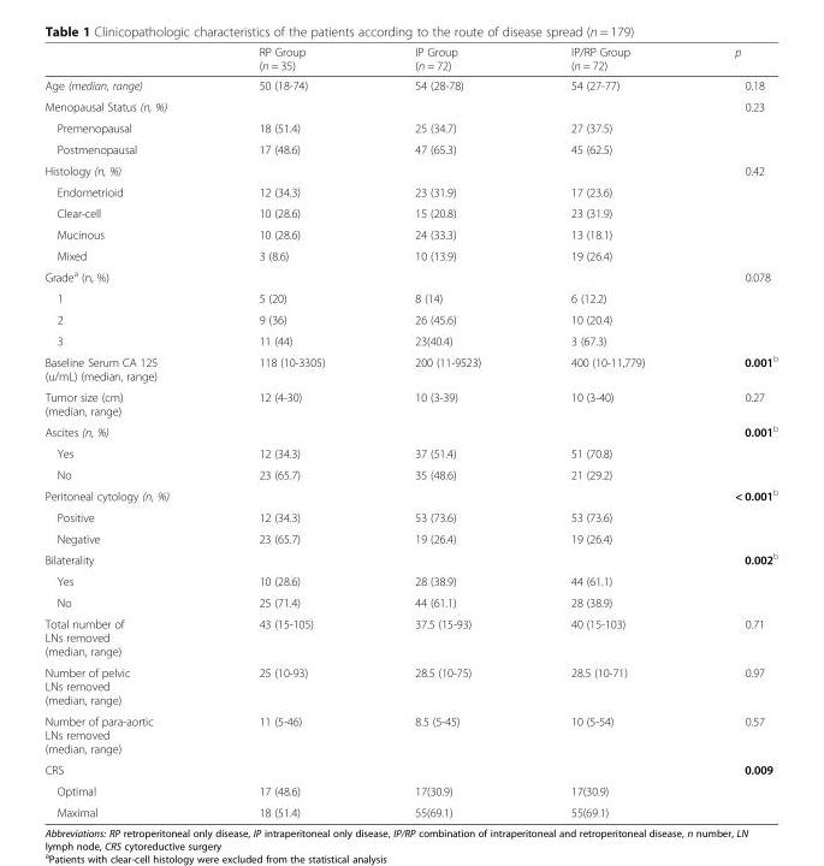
<table><thead><tr><td></td><td>RP Group (n = 35)</td><td>IP Group (n = 72)</td><td>IP/RP Group (n = 72)</td><td>p</td></tr></thead><tbody><tr><td>Age (median, range)</td><td>50 (18-74)</td><td>54 (28-78)</td><td>54 (27-77)</td><td>0.18</td></tr><tr><td>Menopausal Status (n, %)</td><td></td><td></td><td></td><td>0.23</td></tr><tr><td>Premenopausal</td><td>18 (51.4)</td><td>25 (34.7)</td><td>27 (37.5)</td><td></td></tr><tr><td>Postmenopausal</td><td>17 (48.6)</td><td>47 (65.3)</td><td>45 (62.5)</td><td></td></tr><tr><td>Histology (n, %)</td><td></td><td></td><td></td><td>0.42</td></tr><tr><td>Endometrioid</td><td>12 (34.3)</td><td>23 (31.9)</td><td>17 (23.6)</td><td></td></tr><tr><td>Clear-cell</td><td>10 (28.6)</td><td>15 (20.8)</td><td>23 (31.9)</td><td></td></tr><tr><td>Mucinous</td><td>10 (28.6)</td><td>24 (33.3)</td><td>13 (18.1)</td><td></td></tr><tr><td>Mixed</td><td>3 (8.6)</td><td>10 (13.9)</td><td>19 (26.4)</td><td></td></tr><tr><td>Grade<sup>a</sup> (n, %)</td><td></td><td></td><td></td><td>0.078</td></tr><tr><td>1</td><td>5 (20)</td><td>8 (14)</td><td>6 (12.2)</td><td></td></tr><tr><td>2</td><td>9 (36)</td><td>26 (45.6)</td><td>10 (20.4)</td><td></td></tr><tr><td>3</td><td>11 (44)</td><td>23(40.4)</td><td>3 (67.3)</td><td></td></tr><tr><td>Baseline Serum CA 125 (u/mL) (median, range)</td><td>118 (10-3305)</td><td>200 (11-9523)</td><td>400 (10-11,779)</td><td>0.001<sup>b</sup></td></tr><tr><td>Tumor size (cm) (median, range)</td><td>12 (4-30)</td><td>10 (3-39)</td><td>10 (3-40)</td><td>0.27</td></tr><tr><td>Ascites (n, %)</td><td></td><td></td><td></td><td>0.001<sup>b</sup></td></tr><tr><td>Yes</td><td>12 (34.3)</td><td>37 (51.4)</td><td>51 (70.8)</td><td></td></tr><tr><td>No</td><td>23 (65.7)</td><td>35 (48.6)</td><td>21 (29.2)</td><td></td></tr><tr><td>Peritoneal cytology (n, %)</td><td></td><td></td><td></td><td>&lt; 0.001<sup>b</sup></td></tr><tr><td>Positive</td><td>12 (34.3)</td><td>53 (73.6)</td><td>53 (73.6)</td><td></td></tr><tr><td>Negative</td><td>23 (65.7)</td><td>19 (26.4)</td><td>19 (26.4)</td><td></td></tr><tr><td>Bilaterality</td><td></td><td></td><td></td><td>0.002<sup>b</sup></td></tr><tr><td>Yes</td><td>10 (28.6)</td><td>28 (38.9)</td><td>44 (61.1)</td><td></td></tr><tr><td>No</td><td>25 (71.4)</td><td>44 (61.1)</td><td>28 (38.9)</td><td></td></tr><tr><td>Total number of LNs removed (median, range)</td><td>43 (15-105)</td><td>37.5 (15-93)</td><td>40 (15-103)</td><td>0.71</td></tr><tr><td>Number of pelvic LNs removed (median, range)</td><td>25 (10-93)</td><td>28.5 (10-75)</td><td>28.5 (10-71)</td><td>0.97</td></tr><tr><td>Number of para-aortic LNs removed (median, range)</td><td>11 (5-46)</td><td>8.5 (5-45)</td><td>10 (5-54)</td><td>0.57</td></tr><tr><td>CRS</td><td></td><td></td><td></td><td>0.009</td></tr><tr><td>Optimal</td><td>17 (48.6)</td><td>17(30.9)</td><td>17(30.9)</td><td></td></tr><tr><td>Maximal</td><td>18 (51.4)</td><td>55(69.1)</td><td>55(69.1)</td><td></td></tr></tbody></table>